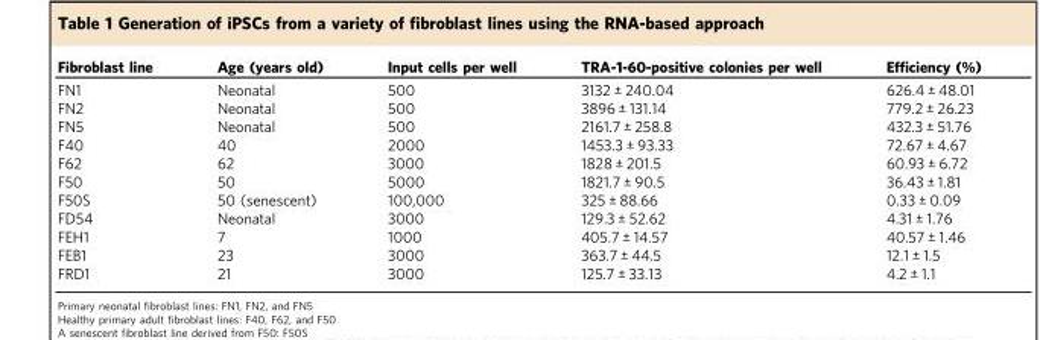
<table><thead><tr><td>Fibroblast line</td><td>Age (years old)</td><td>Input cells per well</td><td>TRA-1-60-positive colonies per well</td><td>Efficiency (%)</td></tr></thead><tbody><tr><td>FN1</td><td>Neonatal</td><td>500</td><td>3132 ± 240.04</td><td>626.4 ± 48.01</td></tr><tr><td>FN2</td><td>Neonatal</td><td>500</td><td>3896 ± 131.14</td><td>779.2 ± 26.23</td></tr><tr><td>FN5</td><td>Neonatal</td><td>500</td><td>2161.7 ± 258.8</td><td>432.3 ± 51.76</td></tr><tr><td>F40</td><td>40</td><td>2000</td><td>1453.3 ± 93.33</td><td>72.67 ± 4.67</td></tr><tr><td>F62</td><td>62</td><td>3000</td><td>1828 ± 201.5</td><td>60.93 ± 6.72</td></tr><tr><td>F50</td><td>50</td><td>5000</td><td>1821.7 ± 90.5</td><td>36.43 ± 1.81</td></tr><tr><td>F50S</td><td>50 (senescent)</td><td>100,000</td><td>325 ± 88.66</td><td>0.33 ± 0.09</td></tr><tr><td>FD54</td><td>Neonatal</td><td>3000</td><td>129.3 ± 52.62</td><td>4.31 ± 1.76</td></tr><tr><td>FEH1</td><td>7</td><td>1000</td><td>405.7 ± 14.57</td><td>40.57 ± 1.46</td></tr><tr><td>FEB1</td><td>23</td><td>3000</td><td>363.7 ± 44.5</td><td>12.1 ± 1.5</td></tr><tr><td>FRD1</td><td>21</td><td>3000</td><td>125.7 ± 33.13</td><td>4.2 ± 1.1</td></tr></tbody></table>